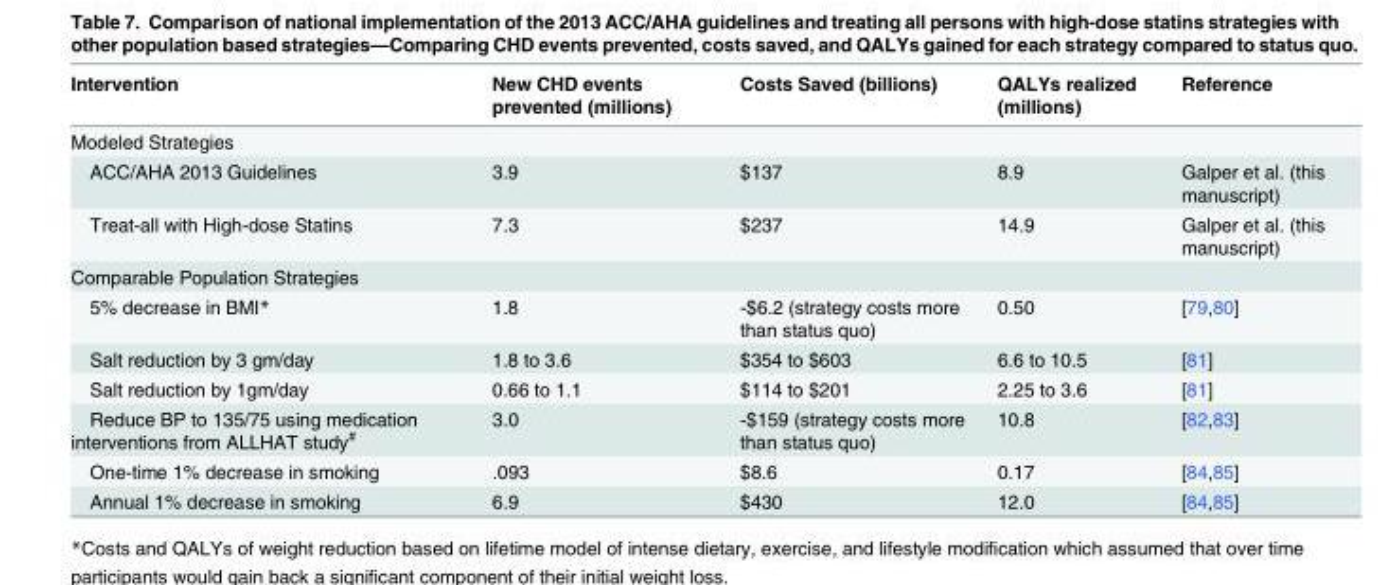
<table><thead><tr><td>Intervention</td><td>New CHD events prevented (millions)</td><td>Costs Saved (billions)</td><td>QALYs realized (millions)</td><td>Reference</td></tr></thead><tbody><tr><td colspan="5">Modeled Strategies</td></tr><tr><td>ACC/AHA 2013 Guidelines</td><td>3.9</td><td>$137</td><td>8.9</td><td>Galper et al. (this manuscript)</td></tr><tr><td>Treat-all with High-dose Statins</td><td>7.3</td><td>$237</td><td>14.9</td><td>Galper et al. (this manuscript)</td></tr><tr><td colspan="5">Comparable Population Strategies</td></tr><tr><td>5% decrease in BMI*</td><td>1.8</td><td>-$6.2 (strategy costs more than status quo)</td><td>0.50</td><td>[79,80]</td></tr><tr><td>Salt reduction by 3 gm/day</td><td>1.8 to 3.6</td><td>$354 to $603</td><td>6.6 to 10.5</td><td>[81]</td></tr><tr><td>Salt reduction by 1gm/day</td><td>0.66 to 1.1</td><td>$114 to $201</td><td>2.25 to 3.6</td><td>[81]</td></tr><tr><td>Reduce BP to 135/75 using medication interventions from ALLHAT study<sup>#</sup></td><td>3.0</td><td>-$159 (strategy costs more than status quo)</td><td>10.8</td><td>[82,83]</td></tr><tr><td>One-time 1% decrease in smoking</td><td>.093</td><td>$8.6</td><td>0.17</td><td>[84,85]</td></tr><tr><td>Annual 1% decrease in smoking</td><td>6.9</td><td>$430</td><td>12.0</td><td>[84,85]</td></tr></tbody></table>